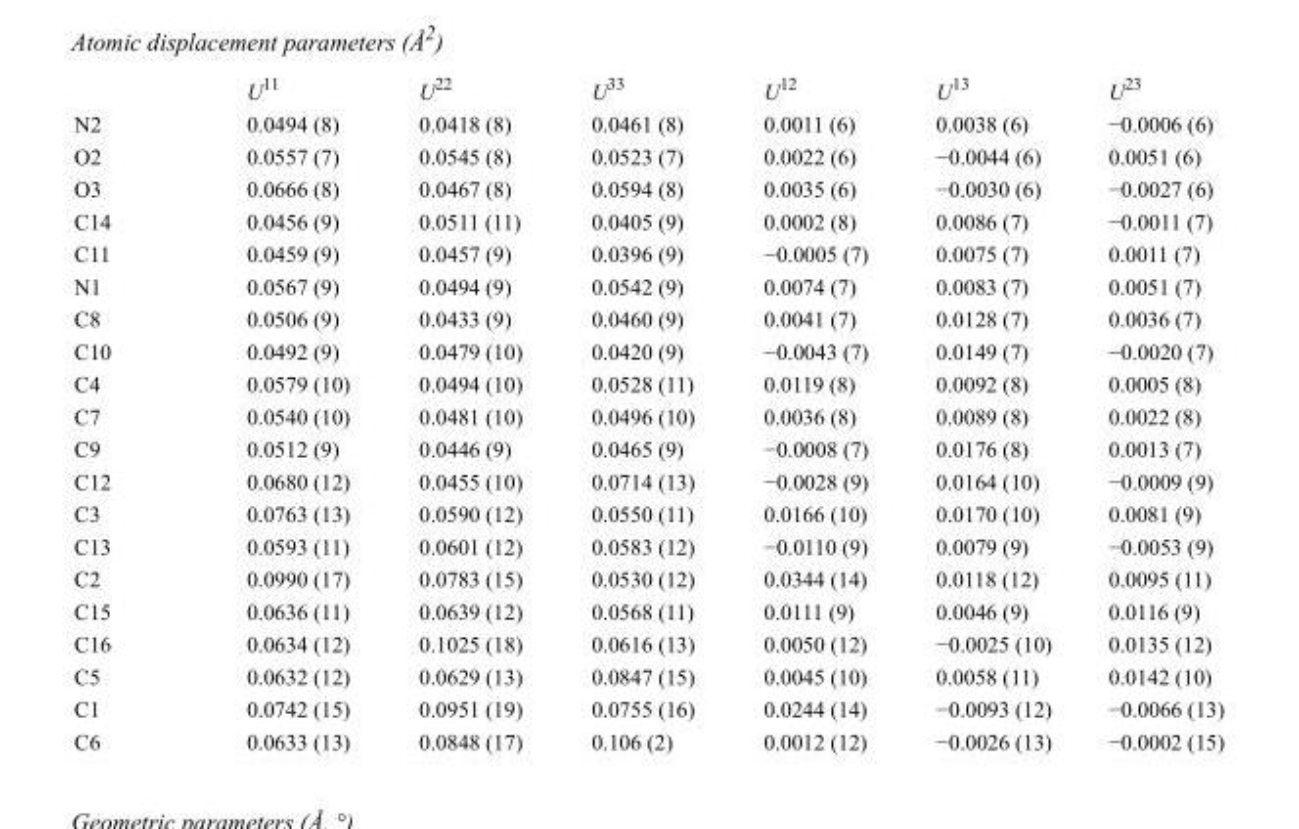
<table><thead><tr><td></td><td>U<sup>11</sup></td><td>U<sup>22</sup></td><td>U<sup>33</sup></td><td>U<sup>12</sup></td><td>U<sup>13</sup></td><td>U<sup>23</sup></td></tr></thead><tbody><tr><td>N2</td><td>0.0494 (8)</td><td>0.0418 (8)</td><td>0.0461 (8)</td><td>0.0011 (6)</td><td>0.0038 (6)</td><td>−0.0006 (6)</td></tr><tr><td>O2</td><td>0.0557 (7)</td><td>0.0545 (8)</td><td>0.0523 (7)</td><td>0.0022 (6)</td><td>−0.0044 (6)</td><td>0.0051 (6)</td></tr><tr><td>O3</td><td>0.0666 (8)</td><td>0.0467 (8)</td><td>0.0594 (8)</td><td>0.0035 (6)</td><td>−0.0030 (6)</td><td>−0.0027 (6)</td></tr><tr><td>C14</td><td>0.0456 (9)</td><td>0.0511 (11)</td><td>0.0405 (9)</td><td>0.0002 (8)</td><td>0.0086 (7)</td><td>−0.0011 (7)</td></tr><tr><td>C11</td><td>0.0459 (9)</td><td>0.0457 (9)</td><td>0.0396 (9)</td><td>−0.0005 (7)</td><td>0.0075 (7)</td><td>0.0011 (7)</td></tr><tr><td>N1</td><td>0.0567 (9)</td><td>0.0494 (9)</td><td>0.0542 (9)</td><td>0.0074 (7)</td><td>0.0083 (7)</td><td>0.0051 (7)</td></tr><tr><td>C8</td><td>0.0506 (9)</td><td>0.0433 (9)</td><td>0.0460 (9)</td><td>0.0041 (7)</td><td>0.0128 (7)</td><td>0.0036 (7)</td></tr><tr><td>C10</td><td>0.0492 (9)</td><td>0.0479 (10)</td><td>0.0420 (9)</td><td>−0.0043 (7)</td><td>0.0149 (7)</td><td>−0.0020 (7)</td></tr><tr><td>C4</td><td>0.0579 (10)</td><td>0.0494 (10)</td><td>0.0528 (11)</td><td>0.0119 (8)</td><td>0.0092 (8)</td><td>0.0005 (8)</td></tr><tr><td>C7</td><td>0.0540 (10)</td><td>0.0481 (10)</td><td>0.0496 (10)</td><td>0.0036 (8)</td><td>0.0089 (8)</td><td>0.0022 (8)</td></tr><tr><td>C9</td><td>0.0512 (9)</td><td>0.0446 (9)</td><td>0.0465 (9)</td><td>−0.0008 (7)</td><td>0.0176 (8)</td><td>0.0013 (7)</td></tr><tr><td>C12</td><td>0.0680 (12)</td><td>0.0455 (10)</td><td>0.0714 (13)</td><td>−0.0028 (9)</td><td>0.0164 (10)</td><td>−0.0009 (9)</td></tr><tr><td>C3</td><td>0.0763 (13)</td><td>0.0590 (12)</td><td>0.0550 (11)</td><td>0.0166 (10)</td><td>0.0170 (10)</td><td>0.0081 (9)</td></tr><tr><td>C13</td><td>0.0593 (11)</td><td>0.0601 (12)</td><td>0.0583 (12)</td><td>−0.0110 (9)</td><td>0.0079 (9)</td><td>−0.0053 (9)</td></tr><tr><td>C2</td><td>0.0990 (17)</td><td>0.0783 (15)</td><td>0.0530 (12)</td><td>0.0344 (14)</td><td>0.0118 (12)</td><td>0.0095 (11)</td></tr><tr><td>C15</td><td>0.0636 (11)</td><td>0.0639 (12)</td><td>0.0568 (11)</td><td>0.0111 (9)</td><td>0.0046 (9)</td><td>0.0116 (9)</td></tr><tr><td>C16</td><td>0.0634 (12)</td><td>0.1025 (18)</td><td>0.0616 (13)</td><td>0.0050 (12)</td><td>−0.0025 (10)</td><td>0.0135 (12)</td></tr><tr><td>C5</td><td>0.0632 (12)</td><td>0.0629 (13)</td><td>0.0847 (15)</td><td>0.0045 (10)</td><td>0.0058 (11)</td><td>0.0142 (10)</td></tr><tr><td>C1</td><td>0.0742 (15)</td><td>0.0951 (19)</td><td>0.0755 (16)</td><td>0.0244 (14)</td><td>−0.0093 (12)</td><td>−0.0066 (13)</td></tr><tr><td>C6</td><td>0.0633 (13)</td><td>0.0848 (17)</td><td>0.106 (2)</td><td>0.0012 (12)</td><td>−0.0026 (13)</td><td>−0.0002 (15)</td></tr></tbody></table>